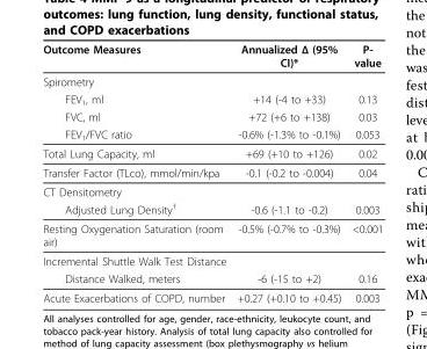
<table><thead><tr><td>Outcome Measures</td><td>Annualized Δ (95% CI)*</td><td>P- value</td></tr></thead><tbody><tr><td colspan="3">Spirometry</td></tr><tr><td>FEV<sub>1</sub>, ml</td><td>+14 (-4 to +33)</td><td>0.13</td></tr><tr><td>FVC, ml</td><td>+72 (+6 to +138)</td><td>0.03</td></tr><tr><td>FEV<sub>1</sub>/FVC ratio</td><td>-0.6% (-1.3% to -0.1%)</td><td>0.053</td></tr><tr><td>Total Lung Capacity, ml</td><td>+69 (+10 to +126)</td><td>0.02</td></tr><tr><td>Transfer Factor (TLco), mmol/min/kpa</td><td>-0.1 (-0.2 to -0.004)</td><td>0.04</td></tr><tr><td colspan="3">CT Densitometry</td></tr><tr><td>Adjusted Lung Density<sup>†</sup></td><td>-0.6 (-1.1 to -0.2)</td><td>0.003</td></tr><tr><td>Resting Oxygenation Saturation (room air)</td><td>-0.5% (-0.7% to -0.3%)</td><td>&lt;0.001</td></tr><tr><td colspan="3">Incremental Shuttle Walk Test Distance</td></tr><tr><td>Distance Walked, meters</td><td>-6 (-15 to +2)</td><td>0.16</td></tr><tr><td>Acute Exacerbations of COPD, number</td><td>+0.27 (+0.10 to +0.45)</td><td>0.003</td></tr></tbody></table>